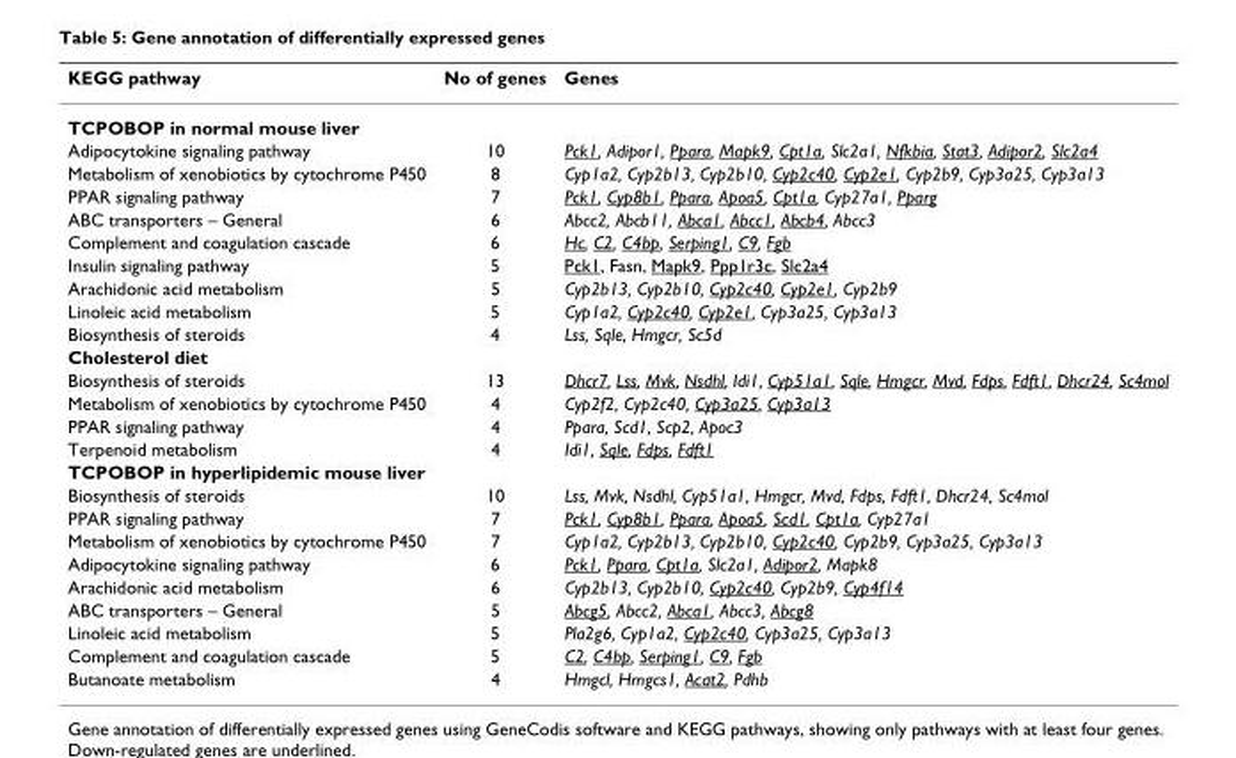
<table><thead><tr><td>KEGG pathway</td><td>No of genes</td><td>Genes</td></tr></thead><tbody><tr><td colspan="3">TCPOBOP in normal mouse liver</td></tr><tr><td>Adipocytokine signaling pathway</td><td>10</td><td>Pck1, Adipor1, Ppara, Mapk9, Cpt1a, Slc2a1, Nfkbia, Stat3, Adipor2, Slc2a4</td></tr><tr><td>Metabolism of xenobiotics by cytochrome P450</td><td>8</td><td>Cyp1a2, Cyp2b13, Cyp2b10, Cyp2c40, Cyp2e1, Cyp2b9, Cyp3a25, Cyp3a13</td></tr><tr><td>PPAR signaling pathway</td><td>7</td><td>Pck1, Cyp8b1, Ppara, Apoa5, Cpt1a, Cyp27a1, Pparg</td></tr><tr><td>ABC transporters – General</td><td>6</td><td>Abcc2, Abcb11, Abca1, Abcc1, Abcb4, Abcc3</td></tr><tr><td>Complement and coagulation cascade</td><td>6</td><td>Hc, C2, C4bp, Serping1, C9, Fgb</td></tr><tr><td>Insulin signaling pathway</td><td>5</td><td>Pck1, Fasn, Mapk9, Ppp1r3c, Slc2a4</td></tr><tr><td>Arachidonic acid metabolism</td><td>5</td><td>Cyp2b13, Cyp2b10, Cyp2c40, Cyp2e1, Cyp2b9</td></tr><tr><td>Linoleic acid metabolism</td><td>5</td><td>Cyp1a2, Cyp2c40, Cyp2e1, Cyp3a25, Cyp3a13</td></tr><tr><td>Biosynthesis of steroids</td><td>4</td><td>Lss, Sqle, Hmgcr, Sc5d</td></tr><tr><td colspan="3">Cholesterol diet</td></tr><tr><td>Biosynthesis of steroids</td><td>13</td><td>Dhcr7, Lss, Mvk, Nsdhl, Idi1, Cyp51a1, Sqle, Hmgcr, Mvd, Fdps, Fdft1, Dhcr24, Sc4mol</td></tr><tr><td>Metabolism of xenobiotics by cytochrome P450</td><td>4</td><td>Cyp2f2, Cyp2c40, Cyp3a25, Cyp3a13</td></tr><tr><td>PPAR signaling pathway</td><td>4</td><td>Ppara, Scd1, Scp2, Apoc3</td></tr><tr><td>Terpenoid metabolism</td><td>4</td><td>Idi1, Sqle, Fdps, Fdft1</td></tr><tr><td colspan="3">TCPOBOP in hyperlipidemic mouse liver</td></tr><tr><td>Biosynthesis of steroids</td><td>10</td><td>Lss, Mvk, Nsdhl, Cyp51a1, Hmgcr, Mvd, Fdps, Fdft1, Dhcr24, Sc4mol</td></tr><tr><td>PPAR signaling pathway</td><td>7</td><td>Pck1, Cyp8b1, Ppara, Apoa5, Scd1, Cpt1a, Cyp27a1</td></tr><tr><td>Metabolism of xenobiotics by cytochrome P450</td><td>7</td><td>Cyp1a2, Cyp2b13, Cyp2b10, Cyp2c40, Cyp2b9, Cyp3a25, Cyp3a13</td></tr><tr><td>Adipocytokine signaling pathway</td><td>6</td><td>Pck1, Ppara, Cpt1a, Slc2a1, Adipor2, Mapk8</td></tr><tr><td>Arachidonic acid metabolism</td><td>6</td><td>Cyp2b13, Cyp2b10, Cyp2c40, Cyp2b9, Cyp4f14</td></tr><tr><td>ABC transporters – General</td><td>5</td><td>Abcg5, Abcc2, Abca1, Abcc3, Abcg8</td></tr><tr><td>Linoleic acid metabolism</td><td>5</td><td>Pla2g6, Cyp1a2, Cyp2c40, Cyp3a25, Cyp3a13</td></tr><tr><td>Complement and coagulation cascade</td><td>5</td><td>C2, C4bp, Serping1, C9, Fgb</td></tr><tr><td>Butanoate metabolism</td><td>4</td><td>Hmgcl, Hmgcs1, Acat2, Pdhb</td></tr></tbody></table>